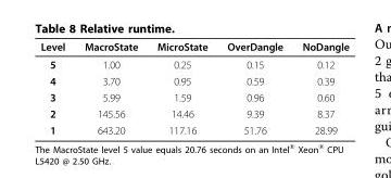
<table><thead><tr><td>Level</td><td>MacroState</td><td>MicroState</td><td>OverDangle</td><td>NoDangle</td></tr></thead><tbody><tr><td>5</td><td>1.00</td><td>0.25</td><td>0.15</td><td>0.12</td></tr><tr><td>4</td><td>3.70</td><td>0.95</td><td>0.59</td><td>0.39</td></tr><tr><td>3</td><td>5.99</td><td>1.59</td><td>0.96</td><td>0.60</td></tr><tr><td>2</td><td>145.56</td><td>14.46</td><td>9.39</td><td>8.37</td></tr><tr><td>1</td><td>643.20</td><td>117.16</td><td>51.76</td><td>28.99</td></tr></tbody></table>